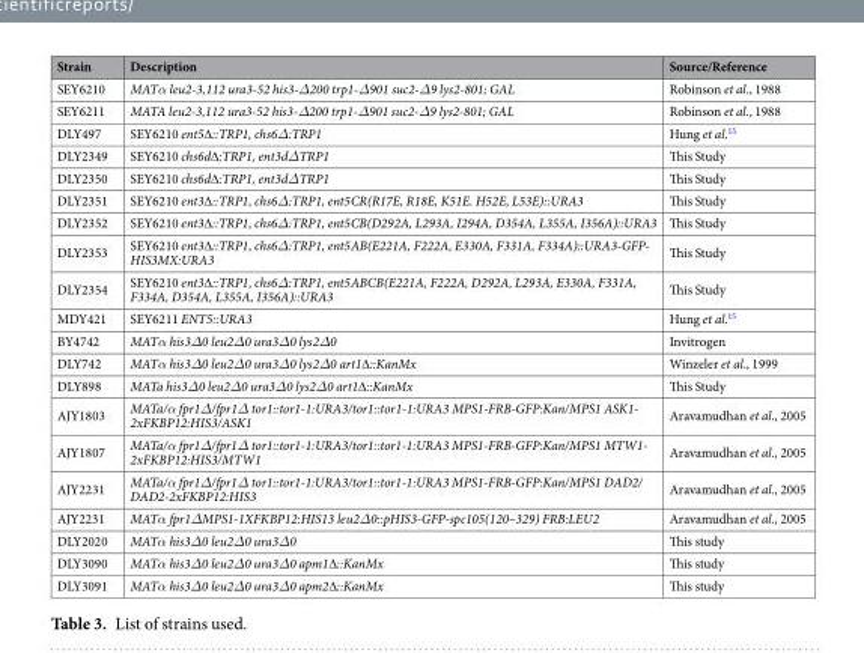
<table><thead><tr><td>Strain</td><td>Description</td><td>Source/Reference</td></tr></thead><tbody><tr><td>SEY6210</td><td>MATα leu2-3,112 ura3-52 his3-Δ200 trp1-Δ901 suc2-Δ9 lys2-801; GAL</td><td>Robinson et al., 1988</td></tr><tr><td>SEY6211</td><td>MATA leu2-3,112 ura3-52 his3-Δ200 trp1-Δ901 suc2-Δ9 lys2-801; GAL</td><td>Robinson et al., 1988</td></tr><tr><td>DLY497</td><td>SEY6210 ent5∆::TRP1, chs6Δ:TRP1</td><td>Hung et al.<sup>15</sup></td></tr><tr><td>DLY2349</td><td>SEY6210 chs6d∆:TRP1, ent3dΔTRP1</td><td>This Study</td></tr><tr><td>DLY2350</td><td>SEY6210 chs6d∆:TRP1, ent3dΔTRP1</td><td>This Study</td></tr><tr><td>DLY2351</td><td>SEY6210 ent3∆::TRP1, chs6Δ:TRP1, ent5CR(R17E, R18E, K51E. H52E, L53E)::URA3</td><td>This Study</td></tr><tr><td>DLY2352</td><td>SEY6210 ent3∆::TRP1, chs6Δ:TRP1, ent5CB(D292A, L293A, I294A, D354A, L355A, I356A)::URA3</td><td>This Study</td></tr><tr><td>DLY2353</td><td>SEY6210 ent3∆::TRP1, chs6Δ:TRP1, ent5AB(E221A, F222A, E330A, F331A, F334A)::URA3-GFP- HIS3MX:URA3</td><td>This Study</td></tr><tr><td>DLY2354</td><td>SEY6210 ent3∆::TRP1, chs6Δ:TRP1, ent5ABCB(E221A, F222A, D292A, L293A, E330A, F331A, F334A, D354A, L355A, I356A)::URA3</td><td>This Study</td></tr><tr><td>MDY421</td><td>SEY6211 ENT5::URA3</td><td>Hung et al.<sup>15</sup></td></tr><tr><td>BY4742</td><td>MATα his3Δ0 leu2Δ0 ura3Δ0 lys2Δ0</td><td>Invitrogen</td></tr><tr><td>DLY742</td><td>MATα his3Δ0 leu2Δ0 ura3Δ0 lys2Δ0 art1∆::KanMx</td><td>Winzeler et al., 1999</td></tr><tr><td>DLY898</td><td>MATa his3Δ0 leu2Δ0 ura3Δ0 lys2Δ0 art1∆::KanMx</td><td>This Study</td></tr><tr><td>AJY1803</td><td>MATa/α fpr1Δ/fpr1Δ tor1::tor1-1:URA3/tor1::tor1-1:URA3 MPS1-FRB-GFP:Kan/MPS1 ASK1- 2xFKBP12:HIS3/ASK1</td><td>Aravamudhan et al., 2005</td></tr><tr><td>AJY1807</td><td>MATa/α fpr1Δ/fpr1Δ tor1::tor1-1:URA3/tor1::tor1-1:URA3 MPS1-FRB-GFP:Kan/MPS1 MTW1- 2xFKBP12:HIS3/MTW1</td><td>Aravamudhan et al., 2005</td></tr><tr><td>AJY2231</td><td>MATa/α fpr1Δ/fpr1Δ tor1::tor1-1:URA3/tor1::tor1-1:URA3 MPS1-FRB-GFP:Kan/MPS1 DAD2/ DAD2-2xFKBP12:HIS3</td><td>Aravamudhan et al., 2005</td></tr><tr><td>AJY2231</td><td>MATα fpr1ΔMPS1-1XFKBP12:HIS13 leu2Δ0::pHIS3-GFP-spc105(120–329) FRB:LEU2</td><td>Aravamudhan et al., 2005</td></tr><tr><td>DLY2020</td><td>MATα his3Δ0 leu2Δ0 ura3Δ0</td><td>This study</td></tr><tr><td>DLY3090</td><td>MATα his3Δ0 leu2Δ0 ura3Δ0 apm1∆::KanMx</td><td>This study</td></tr><tr><td>DLY3091</td><td>MATα his3Δ0 leu2Δ0 ura3Δ0 apm2∆::KanMx</td><td>This study</td></tr></tbody></table>